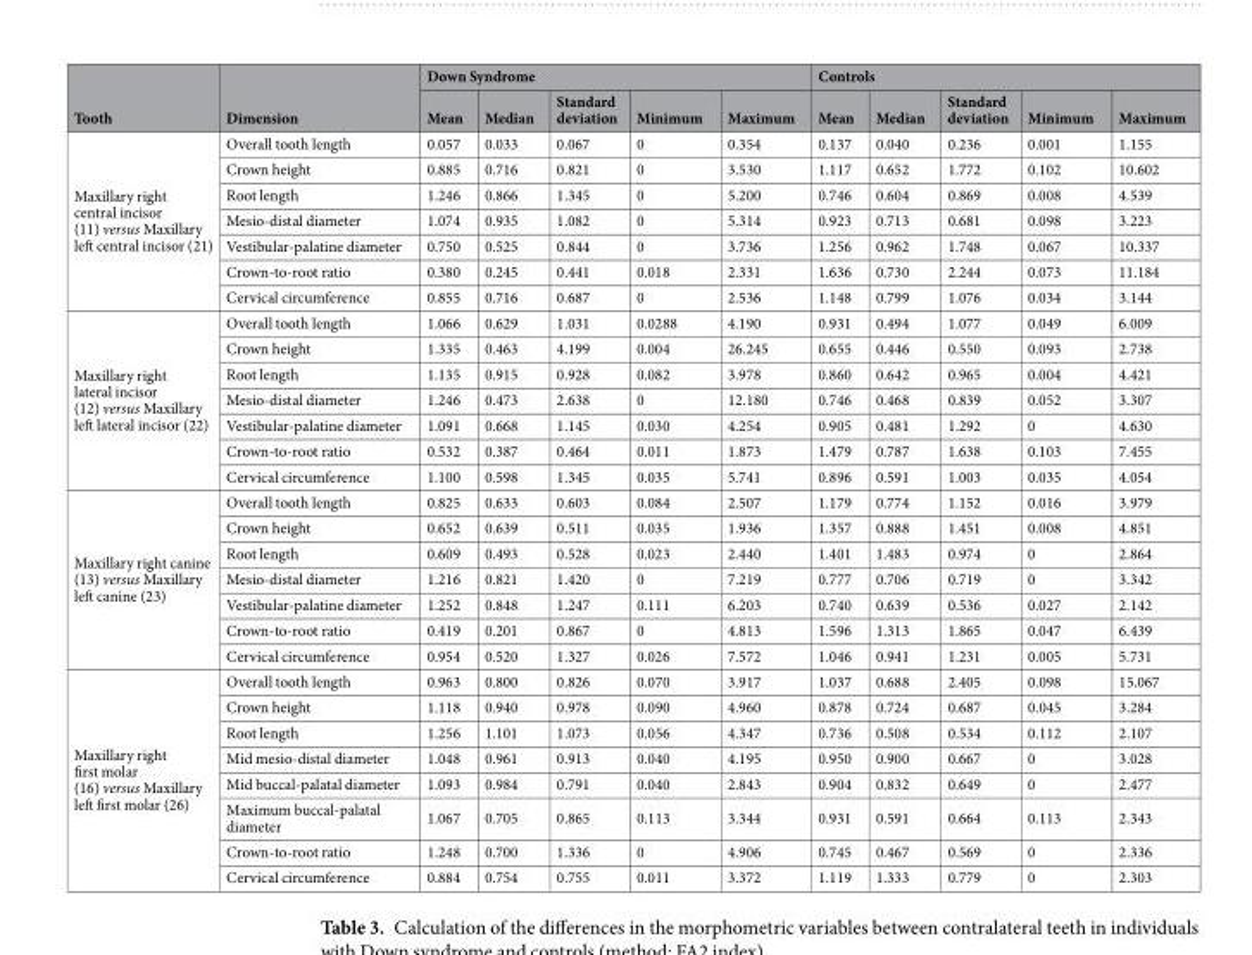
<table><thead><tr><td rowspan="2">Tooth</td><td rowspan="2">Dimension</td><td colspan="5">Down Syndrome</td><td colspan="5">Controls</td></tr><tr><td>Mean</td><td>Median</td><td>Standard deviation</td><td>Minimum</td><td>Maximum</td><td>Mean</td><td>Median</td><td>Standard deviation</td><td>Minimum</td><td>Maximum</td></tr></thead><tbody><tr><td rowspan="7">Maxillary right central incisor (11) versus Maxillary left central incisor (21)</td><td>Overall tooth length</td><td>0.057</td><td>0.033</td><td>0.067</td><td>0</td><td>0.354</td><td>0.137</td><td>0.040</td><td>0.236</td><td>0.001</td><td>1.155</td></tr><tr><td>Crown height</td><td>0.885</td><td>0.716</td><td>0.821</td><td>0</td><td>3.530</td><td>1.117</td><td>0.652</td><td>1.772</td><td>0.102</td><td>10.602</td></tr><tr><td>Root length</td><td>1.246</td><td>0.866</td><td>1.345</td><td>0</td><td>5.200</td><td>0.746</td><td>0.604</td><td>0.869</td><td>0.008</td><td>4.539</td></tr><tr><td>Mesio-distal diameter</td><td>1.074</td><td>0.935</td><td>1.082</td><td>0</td><td>5.314</td><td>0.923</td><td>0.713</td><td>0.681</td><td>0.098</td><td>3.223</td></tr><tr><td>Vestibular-palatine diameter</td><td>0.750</td><td>0.525</td><td>0.844</td><td>0</td><td>3.736</td><td>1.256</td><td>0.962</td><td>1.748</td><td>0.067</td><td>10.337</td></tr><tr><td>Crown-to-root ratio</td><td>0.380</td><td>0.245</td><td>0.441</td><td>0.018</td><td>2.331</td><td>1.636</td><td>0.730</td><td>2.244</td><td>0.073</td><td>11.184</td></tr><tr><td>Cervical circumference</td><td>0.855</td><td>0.716</td><td>0.687</td><td>0</td><td>2.536</td><td>1.148</td><td>0.799</td><td>1.076</td><td>0.034</td><td>3.144</td></tr><tr><td rowspan="7">Maxillary right lateral incisor (12) versus Maxillary left lateral incisor (22)</td><td>Overall tooth length</td><td>1.066</td><td>0.629</td><td>1.031</td><td>0.0288</td><td>4.190</td><td>0.931</td><td>0.494</td><td>1.077</td><td>0.049</td><td>6.009</td></tr><tr><td>Crown height</td><td>1.335</td><td>0.463</td><td>4.199</td><td>0.004</td><td>26.245</td><td>0.655</td><td>0.446</td><td>0.550</td><td>0.093</td><td>2.738</td></tr><tr><td>Root length</td><td>1.135</td><td>0.915</td><td>0.928</td><td>0.082</td><td>3.978</td><td>0.860</td><td>0.642</td><td>0.965</td><td>0.004</td><td>4.421</td></tr><tr><td>Mesio-distal diameter</td><td>1.246</td><td>0.473</td><td>2.638</td><td>0</td><td>12.180</td><td>0.746</td><td>0.468</td><td>0.839</td><td>0.052</td><td>3.307</td></tr><tr><td>Vestibular-palatine diameter</td><td>1.091</td><td>0.668</td><td>1.145</td><td>0.030</td><td>4.254</td><td>0.905</td><td>0.481</td><td>1.292</td><td>0</td><td>4.630</td></tr><tr><td>Crown-to-root ratio</td><td>0.532</td><td>0.387</td><td>0.464</td><td>0.011</td><td>1.873</td><td>1.479</td><td>0.787</td><td>1.638</td><td>0.103</td><td>7.455</td></tr><tr><td>Cervical circumference</td><td>1.100</td><td>0.598</td><td>1.345</td><td>0.035</td><td>5.741</td><td>0.896</td><td>0.591</td><td>1.003</td><td>0.035</td><td>4.054</td></tr><tr><td rowspan="7">Maxillary right canine (13) versus Maxillary left canine (23)</td><td>Overall tooth length</td><td>0.825</td><td>0.633</td><td>0.603</td><td>0.084</td><td>2.507</td><td>1.179</td><td>0.774</td><td>1.152</td><td>0.016</td><td>3.979</td></tr><tr><td>Crown height</td><td>0.652</td><td>0.639</td><td>0.511</td><td>0.035</td><td>1.936</td><td>1.357</td><td>0.888</td><td>1.451</td><td>0.008</td><td>4.851</td></tr><tr><td>Root length</td><td>0.609</td><td>0.493</td><td>0.528</td><td>0.023</td><td>2.440</td><td>1.401</td><td>1.483</td><td>0.974</td><td>0</td><td>2.864</td></tr><tr><td>Mesio-distal diameter</td><td>1.216</td><td>0.821</td><td>1.420</td><td>0</td><td>7.219</td><td>0.777</td><td>0.706</td><td>0.719</td><td>0</td><td>3.342</td></tr><tr><td>Vestibular-palatine diameter</td><td>1.252</td><td>0.848</td><td>1.247</td><td>0.111</td><td>6.203</td><td>0.740</td><td>0.639</td><td>0.536</td><td>0.027</td><td>2.142</td></tr><tr><td>Crown-to-root ratio</td><td>0.419</td><td>0.201</td><td>0.867</td><td>0</td><td>4.813</td><td>1.596</td><td>1.313</td><td>1.865</td><td>0.047</td><td>6.439</td></tr><tr><td>Cervical circumference</td><td>0.954</td><td>0.520</td><td>1.327</td><td>0.026</td><td>7.572</td><td>1.046</td><td>0.941</td><td>1.231</td><td>0.005</td><td>5.731</td></tr><tr><td rowspan="8">Maxillary right first molar (16) versus Maxillary left first molar (26)</td><td>Overall tooth length</td><td>0.963</td><td>0.800</td><td>0.826</td><td>0.070</td><td>3.917</td><td>1.037</td><td>0.688</td><td>2.405</td><td>0.098</td><td>15.067</td></tr><tr><td>Crown height</td><td>1.118</td><td>0.940</td><td>0.978</td><td>0.090</td><td>4.960</td><td>0.878</td><td>0.724</td><td>0.687</td><td>0.045</td><td>3.284</td></tr><tr><td>Root length</td><td>1.256</td><td>1.101</td><td>1.073</td><td>0.056</td><td>4.347</td><td>0.736</td><td>0.508</td><td>0.534</td><td>0.112</td><td>2.107</td></tr><tr><td>Mid mesio-distal diameter</td><td>1.048</td><td>0.961</td><td>0.913</td><td>0.040</td><td>4.195</td><td>0.950</td><td>0.900</td><td>0.667</td><td>0</td><td>3.028</td></tr><tr><td>Mid buccal-palatal diameter</td><td>1.093</td><td>0.984</td><td>0.791</td><td>0.040</td><td>2.843</td><td>0.904</td><td>0.832</td><td>0.649</td><td>0</td><td>2.477</td></tr><tr><td>Maximum buccal-palatal diameter</td><td>1.067</td><td>0.705</td><td>0.865</td><td>0.113</td><td>3.344</td><td>0.931</td><td>0.591</td><td>0.664</td><td>0.113</td><td>2.343</td></tr><tr><td>Crown-to-root ratio</td><td>1.248</td><td>0.700</td><td>1.336</td><td>0</td><td>4.906</td><td>0.745</td><td>0.467</td><td>0.569</td><td>0</td><td>2.336</td></tr><tr><td>Cervical circumference</td><td>0.884</td><td>0.754</td><td>0.755</td><td>0.011</td><td>3.372</td><td>1.119</td><td>1.333</td><td>0.779</td><td>0</td><td>2.303</td></tr></tbody></table>